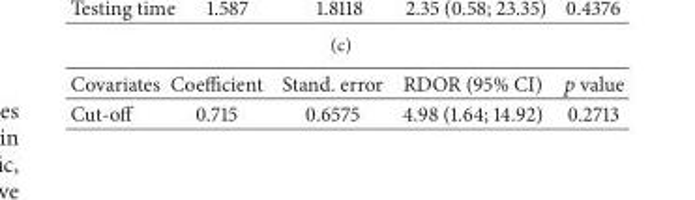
<table><tbody><tr><td>Covariates</td><td>Coefficient</td><td>Stand. error</td><td>RDOR (95% CI)</td><td>value</td></tr><tr><td>Cut-off</td><td>0.715</td><td>0.6575</td><td>4.98 (1.64; 14.92)</td><td>0.2713</td></tr></tbody></table>